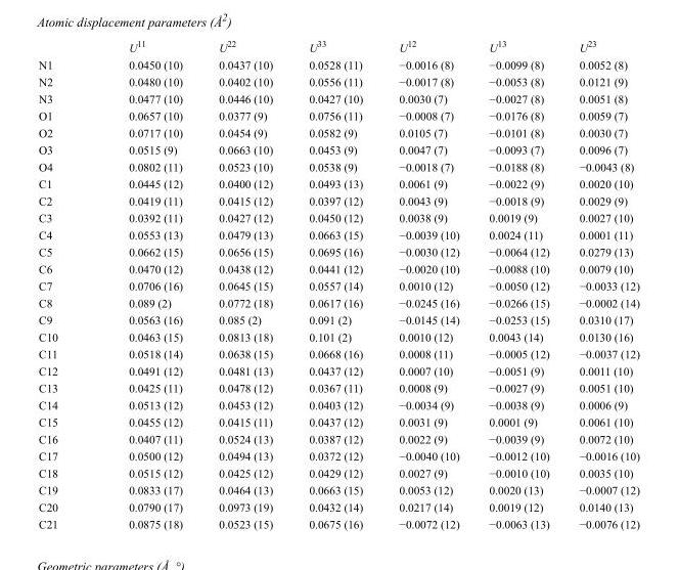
<table><thead><tr><td></td><td>U<sup>11</sup></td><td>U<sup>22</sup></td><td>U<sup>33</sup></td><td>U<sup>12</sup></td><td>U<sup>13</sup></td><td>U<sup>23</sup></td></tr></thead><tbody><tr><td>N1</td><td>0.0450 (10)</td><td>0.0437 (10)</td><td>0.0528 (11)</td><td>−0.0016 (8)</td><td>−0.0099 (8)</td><td>0.0052 (8)</td></tr><tr><td>N2</td><td>0.0480 (10)</td><td>0.0402 (10)</td><td>0.0556 (11)</td><td>−0.0017 (8)</td><td>−0.0053 (8)</td><td>0.0121 (9)</td></tr><tr><td>N3</td><td>0.0477 (10)</td><td>0.0446 (10)</td><td>0.0427 (10)</td><td>0.0030 (7)</td><td>−0.0027 (8)</td><td>0.0051 (8)</td></tr><tr><td>O1</td><td>0.0657 (10)</td><td>0.0377 (9)</td><td>0.0756 (11)</td><td>−0.0008 (7)</td><td>−0.0176 (8)</td><td>0.0059 (7)</td></tr><tr><td>O2</td><td>0.0717 (10)</td><td>0.0454 (9)</td><td>0.0582 (9)</td><td>0.0105 (7)</td><td>−0.0101 (8)</td><td>0.0030 (7)</td></tr><tr><td>O3</td><td>0.0515 (9)</td><td>0.0663 (10)</td><td>0.0453 (9)</td><td>0.0047 (7)</td><td>−0.0093 (7)</td><td>0.0096 (7)</td></tr><tr><td>O4</td><td>0.0802 (11)</td><td>0.0523 (10)</td><td>0.0538 (9)</td><td>−0.0018 (7)</td><td>−0.0188 (8)</td><td>−0.0043 (8)</td></tr><tr><td>C1</td><td>0.0445 (12)</td><td>0.0400 (12)</td><td>0.0493 (13)</td><td>0.0061 (9)</td><td>−0.0022 (9)</td><td>0.0020 (10)</td></tr><tr><td>C2</td><td>0.0419 (11)</td><td>0.0415 (12)</td><td>0.0397 (12)</td><td>0.0043 (9)</td><td>−0.0018 (9)</td><td>0.0029 (9)</td></tr><tr><td>C3</td><td>0.0392 (11)</td><td>0.0427 (12)</td><td>0.0450 (12)</td><td>0.0038 (9)</td><td>0.0019 (9)</td><td>0.0027 (10)</td></tr><tr><td>C4</td><td>0.0553 (13)</td><td>0.0479 (13)</td><td>0.0663 (15)</td><td>−0.0039 (10)</td><td>0.0024 (11)</td><td>0.0001 (11)</td></tr><tr><td>C5</td><td>0.0662 (15)</td><td>0.0656 (15)</td><td>0.0695 (16)</td><td>−0.0030 (12)</td><td>−0.0064 (12)</td><td>0.0279 (13)</td></tr><tr><td>C6</td><td>0.0470 (12)</td><td>0.0438 (12)</td><td>0.0441 (12)</td><td>−0.0020 (10)</td><td>−0.0088 (10)</td><td>0.0079 (10)</td></tr><tr><td>C7</td><td>0.0706 (16)</td><td>0.0645 (15)</td><td>0.0557 (14)</td><td>0.0010 (12)</td><td>−0.0050 (12)</td><td>−0.0033 (12)</td></tr><tr><td>C8</td><td>0.089 (2)</td><td>0.0772 (18)</td><td>0.0617 (16)</td><td>−0.0245 (16)</td><td>−0.0266 (15)</td><td>−0.0002 (14)</td></tr><tr><td>C9</td><td>0.0563 (16)</td><td>0.085 (2)</td><td>0.091 (2)</td><td>−0.0145 (14)</td><td>−0.0253 (15)</td><td>0.0310 (17)</td></tr><tr><td>C10</td><td>0.0463 (15)</td><td>0.0813 (18)</td><td>0.101 (2)</td><td>0.0010 (12)</td><td>0.0043 (14)</td><td>0.0130 (16)</td></tr><tr><td>C11</td><td>0.0518 (14)</td><td>0.0638 (15)</td><td>0.0668 (16)</td><td>0.0008 (11)</td><td>−0.0005 (12)</td><td>−0.0037 (12)</td></tr><tr><td>C12</td><td>0.0491 (12)</td><td>0.0481 (13)</td><td>0.0437 (12)</td><td>0.0007 (10)</td><td>−0.0051 (9)</td><td>0.0011 (10)</td></tr><tr><td>C13</td><td>0.0425 (11)</td><td>0.0478 (12)</td><td>0.0367 (11)</td><td>0.0008 (9)</td><td>−0.0027 (9)</td><td>0.0051 (10)</td></tr><tr><td>C14</td><td>0.0513 (12)</td><td>0.0453 (12)</td><td>0.0403 (12)</td><td>−0.0034 (9)</td><td>−0.0038 (9)</td><td>0.0006 (9)</td></tr><tr><td>C15</td><td>0.0455 (12)</td><td>0.0415 (11)</td><td>0.0437 (12)</td><td>0.0031 (9)</td><td>0.0001 (9)</td><td>0.0061 (10)</td></tr><tr><td>C16</td><td>0.0407 (11)</td><td>0.0524 (13)</td><td>0.0387 (12)</td><td>0.0022 (9)</td><td>−0.0039 (9)</td><td>0.0072 (10)</td></tr><tr><td>C17</td><td>0.0500 (12)</td><td>0.0494 (13)</td><td>0.0372 (12)</td><td>−0.0040 (10)</td><td>−0.0012 (10)</td><td>−0.0016 (10)</td></tr><tr><td>C18</td><td>0.0515 (12)</td><td>0.0425 (12)</td><td>0.0429 (12)</td><td>0.0027 (9)</td><td>−0.0010 (10)</td><td>0.0035 (10)</td></tr><tr><td>C19</td><td>0.0833 (17)</td><td>0.0464 (13)</td><td>0.0663 (15)</td><td>0.0053 (12)</td><td>0.0020 (13)</td><td>−0.0007 (12)</td></tr><tr><td>C20</td><td>0.0790 (17)</td><td>0.0973 (19)</td><td>0.0432 (14)</td><td>0.0217 (14)</td><td>0.0019 (12)</td><td>0.0140 (13)</td></tr><tr><td>C21</td><td>0.0875 (18)</td><td>0.0523 (15)</td><td>0.0675 (16)</td><td>−0.0072 (12)</td><td>−0.0063 (13)</td><td>−0.0076 (12)</td></tr></tbody></table>